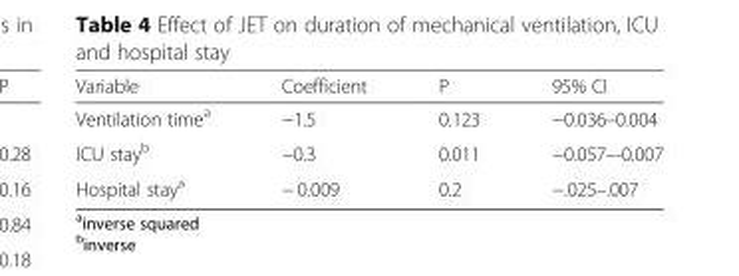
<table><thead><tr><td>Variable</td><td>Coefficient</td><td>P</td><td>95% CI</td></tr></thead><tbody><tr><td>Ventilation time<sup>a</sup></td><td>−1.5</td><td>0.123</td><td>−0.036–0.004</td></tr><tr><td>ICU stay<sup>b</sup></td><td>−0.3</td><td>0.011</td><td>−0.057–-0.007</td></tr><tr><td>Hospital stay<sup>a</sup></td><td>− 0.009</td><td>0.2</td><td>−.025–.007</td></tr></tbody></table>